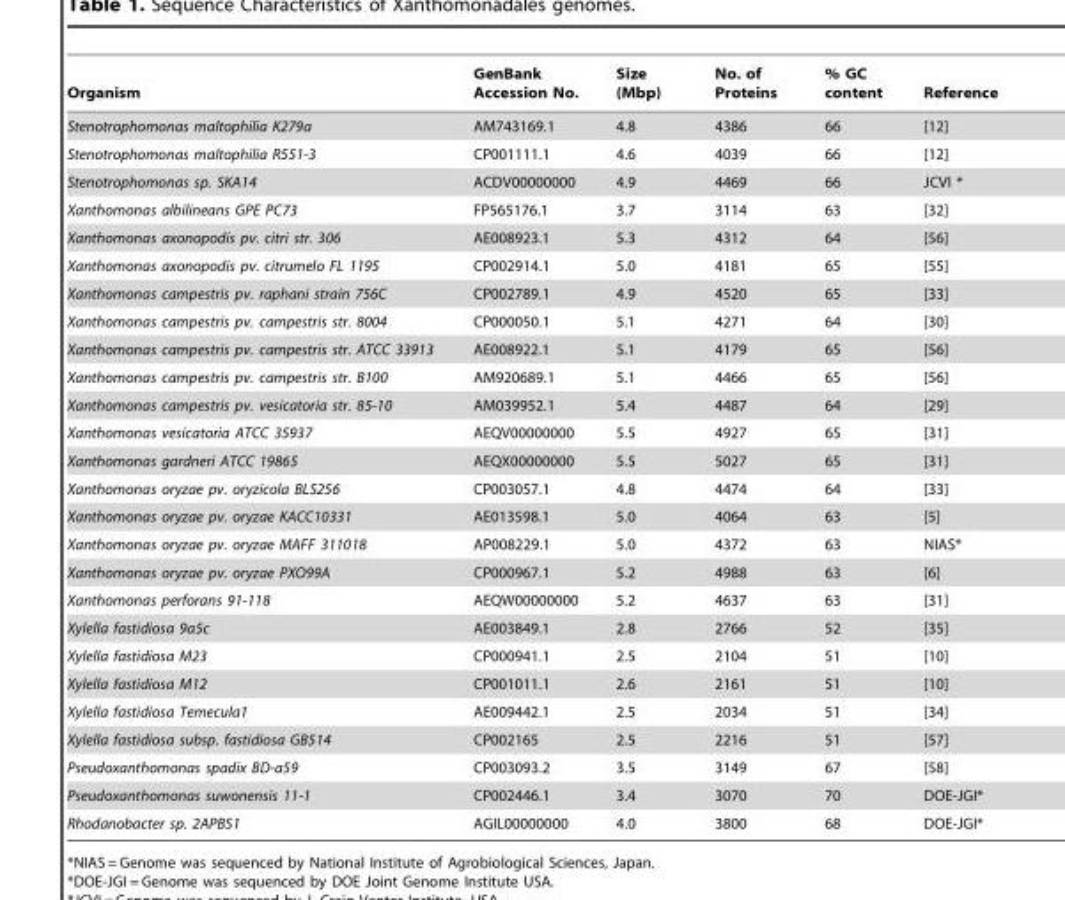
<table><thead><tr><td>Organism</td><td>GenBank Accession No.</td><td>Size (Mbp)</td><td>No. of Proteins</td><td>% GC content</td><td>Reference</td></tr></thead><tbody><tr><td>Stenotrophomonas maltophilia K279a</td><td>AM743169.1</td><td>4.8</td><td>4386</td><td>66</td><td>[12]</td></tr><tr><td>Stenotrophomonas maltophilia R551-3</td><td>CP001111.1</td><td>4.6</td><td>4039</td><td>66</td><td>[12]</td></tr><tr><td>Stenotrophomonas sp. SKA14</td><td>ACDV00000000</td><td>4.9</td><td>4469</td><td>66</td><td>JCVI *</td></tr><tr><td>Xanthomonas albilineans GPE PC73</td><td>FP565176.1</td><td>3.7</td><td>3114</td><td>63</td><td>[32]</td></tr><tr><td>Xanthomonas axonopodis pv. citri str. 306</td><td>AE008923.1</td><td>5.3</td><td>4312</td><td>64</td><td>[56]</td></tr><tr><td>Xanthomonas axonopodis pv. citrumelo FL 1195</td><td>CP002914.1</td><td>5.0</td><td>4181</td><td>65</td><td>[55]</td></tr><tr><td>Xanthomonas campestris pv. raphani strain 756C</td><td>CP002789.1</td><td>4.9</td><td>4520</td><td>65</td><td>[33]</td></tr><tr><td>Xanthomonas campestris pv. campestris str. 8004</td><td>CP000050.1</td><td>5.1</td><td>4271</td><td>64</td><td>[30]</td></tr><tr><td>Xanthomonas campestris pv. campestris str. ATCC 33913</td><td>AE008922.1</td><td>5.1</td><td>4179</td><td>65</td><td>[56]</td></tr><tr><td>Xanthomonas campestris pv. campestris str. B100</td><td>AM920689.1</td><td>5.1</td><td>4466</td><td>65</td><td>[56]</td></tr><tr><td>Xanthomonas campestris pv. vesicatoria str. 85-10</td><td>AM039952.1</td><td>5.4</td><td>4487</td><td>64</td><td>[29]</td></tr><tr><td>Xanthomonas vesicatoria ATCC 35937</td><td>AEQV00000000</td><td>5.5</td><td>4927</td><td>65</td><td>[31]</td></tr><tr><td>Xanthomonas gardneri ATCC 19865</td><td>AEQX00000000</td><td>5.5</td><td>5027</td><td>65</td><td>[31]</td></tr><tr><td>Xanthomonas oryzae pv. oryzicola BLS256</td><td>CP003057.1</td><td>4.8</td><td>4474</td><td>64</td><td>[33]</td></tr><tr><td>Xanthomonas oryzae pv. oryzae KACC10331</td><td>AE013598.1</td><td>5.0</td><td>4064</td><td>63</td><td>[5]</td></tr><tr><td>Xanthomonas oryzae pv. oryzae MAFF 311018</td><td>AP008229.1</td><td>5.0</td><td>4372</td><td>63</td><td>NIAS*</td></tr><tr><td>Xanthomonas oryzae pv. oryzae PXO99A</td><td>CP000967.1</td><td>5.2</td><td>4988</td><td>63</td><td>[6]</td></tr><tr><td>Xanthomonas perforans 91-118</td><td>AEQW00000000</td><td>5.2</td><td>4637</td><td>63</td><td>[31]</td></tr><tr><td>Xylella fastidiosa 9a5c</td><td>AE003849.1</td><td>2.8</td><td>2766</td><td>52</td><td>[35]</td></tr><tr><td>Xylella fastidiosa M23</td><td>CP000941.1</td><td>2.5</td><td>2104</td><td>51</td><td>[10]</td></tr><tr><td>Xylella fastidiosa M12</td><td>CP001011.1</td><td>2.6</td><td>2161</td><td>51</td><td>[10]</td></tr><tr><td>Xylella fastidiosa Temecula1</td><td>AE009442.1</td><td>2.5</td><td>2034</td><td>51</td><td>[34]</td></tr><tr><td>Xylella fastidiosa subsp. fastidiosa GB514</td><td>CP002165</td><td>2.5</td><td>2216</td><td>51</td><td>[57]</td></tr><tr><td>Pseudoxanthomonas spadix BD-a59</td><td>CP003093.2</td><td>3.5</td><td>3149</td><td>67</td><td>[58]</td></tr><tr><td>Pseudoxanthomonas suwonensis 11-1</td><td>CP002446.1</td><td>3.4</td><td>3070</td><td>70</td><td>DOE-JGI*</td></tr><tr><td>Rhodanobacter sp. 2APBS1</td><td>AGIL00000000</td><td>4.0</td><td>3800</td><td>68</td><td>DOE-JGI*</td></tr></tbody></table>